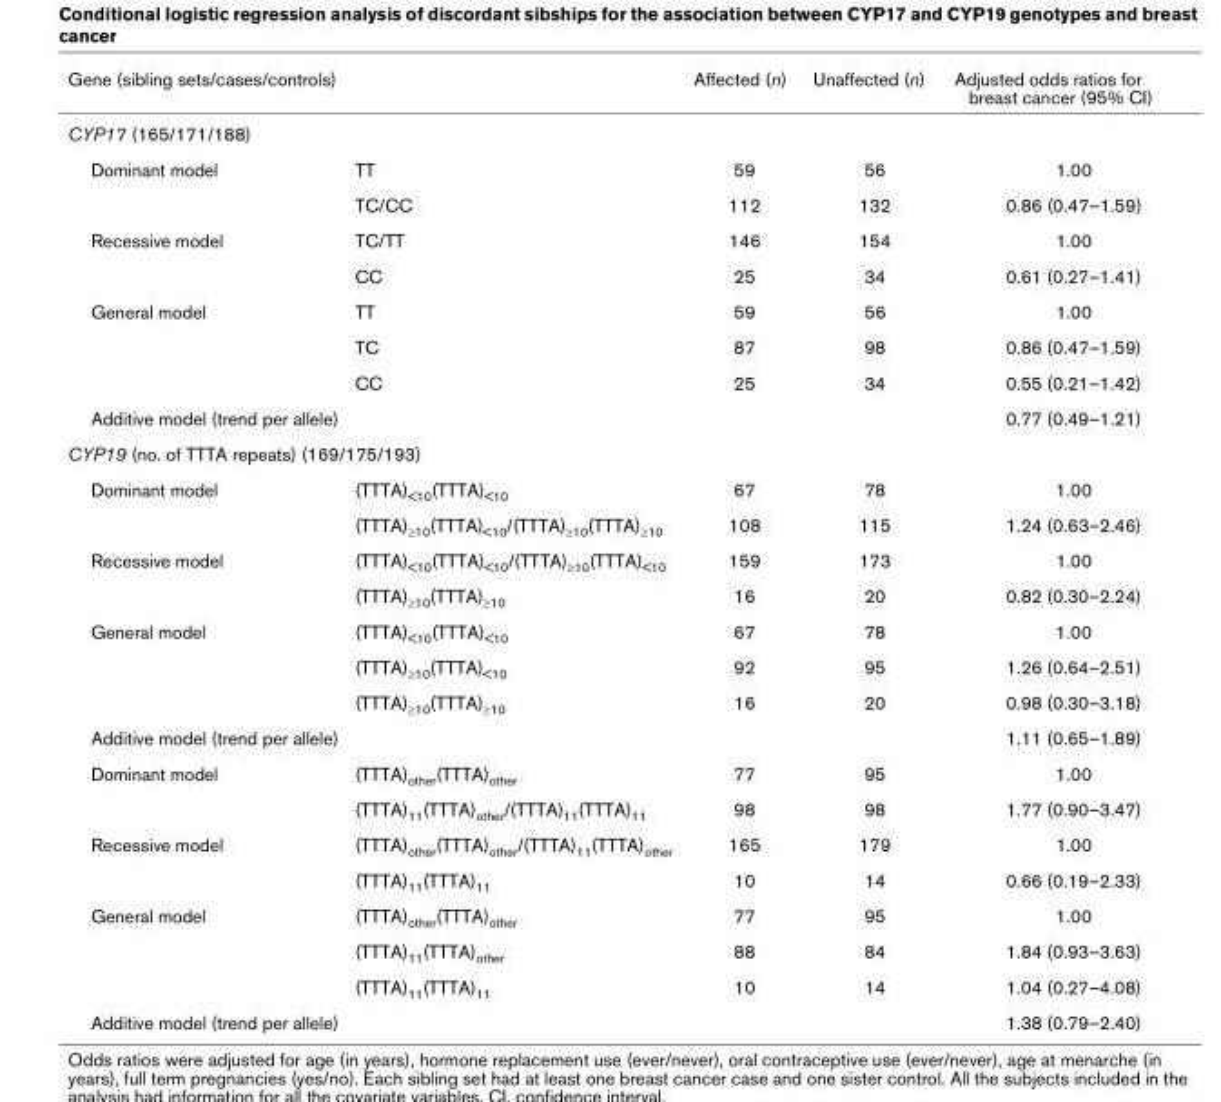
<table><thead><tr><td>Gene (sibling sets/cases/controls)</td><td></td><td>Affected (n)</td><td>Unaffected (n)</td><td>Adjusted odds ratios for breast cancer (95% CI)</td></tr></thead><tbody><tr><td colspan="5">CYP17 (165/171/188)</td></tr><tr><td rowspan="2">Dominant model</td><td>TT</td><td>59</td><td>56</td><td>1.00</td></tr><tr><td>TC/CC</td><td>112</td><td>132</td><td>0.86 (0.47–1.59)</td></tr><tr><td rowspan="2">Recessive model</td><td>TC/TT</td><td>146</td><td>154</td><td>1.00</td></tr><tr><td>CC</td><td>25</td><td>34</td><td>0.61 (0.27–1.41)</td></tr><tr><td rowspan="3">General model</td><td>TT</td><td>59</td><td>56</td><td>1.00</td></tr><tr><td>TC</td><td>87</td><td>98</td><td>0.86 (0.47–1.59)</td></tr><tr><td>CC</td><td>25</td><td>34</td><td>0.55 (0.21–1.42)</td></tr><tr><td colspan="4">Additive model (trend per allele)</td><td>0.77 (0.49–1.21)</td></tr><tr><td colspan="5">CYP19 (no. of TTTA repeats) (169/175/193)</td></tr><tr><td rowspan="2">Dominant model</td><td>(TTTA)&lt;10(TTTA)&lt;10</td><td>67</td><td>78</td><td>1.00</td></tr><tr><td>(TTTA)≥10(TTTA)&lt;10/(TTTA)≥10(TTTA)≥10</td><td>108</td><td>115</td><td>1.24 (0.63–2.46)</td></tr><tr><td rowspan="2">Recessive model</td><td>(TTTA)&lt;10(TTTA)&lt;10/(TTTA)≥10(TTTA)&lt;10</td><td>159</td><td>173</td><td>1.00</td></tr><tr><td>(TTTA)≥10(TTTA)≥10</td><td>16</td><td>20</td><td>0.82 (0.30–2.24)</td></tr><tr><td rowspan="3">General model</td><td>(TTTA)&lt;10(TTTA)&lt;10</td><td>67</td><td>78</td><td>1.00</td></tr><tr><td>(TTTA)≥10(TTTA)&lt;10</td><td>92</td><td>95</td><td>1.26 (0.64–2.51)</td></tr><tr><td>(TTTA)≥10(TTTA)≥10</td><td>16</td><td>20</td><td>0.98 (0.30–3.18)</td></tr><tr><td colspan="4">Additive model (trend per allele)</td><td>1.11 (0.65–1.89)</td></tr><tr><td rowspan="2">Dominant model</td><td>(TTTA)other(TTTA)other</td><td>77</td><td>95</td><td>1.00</td></tr><tr><td>(TTTA)11(TTTA)other/(TTTA)11(TTTA)11</td><td>98</td><td>98</td><td>1.77 (0.90–3.47)</td></tr><tr><td rowspan="2">Recessive model</td><td>(TTTA)other(TTTA)other/(TTTA)11(TTTA)other</td><td>165</td><td>179</td><td>1.00</td></tr><tr><td>(TTTA)11(TTTA)11</td><td>10</td><td>14</td><td>0.66 (0.19–2.33)</td></tr><tr><td rowspan="3">General model</td><td>(TTTA)other(TTTA)other</td><td>77</td><td>95</td><td>1.00</td></tr><tr><td>(TTTA)11(TTTA)other</td><td>88</td><td>84</td><td>1.84 (0.93–3.63)</td></tr><tr><td>(TTTA)11(TTTA)11</td><td>10</td><td>14</td><td>1.04 (0.27–4.08)</td></tr><tr><td colspan="4">Additive model (trend per allele)</td><td>1.38 (0.79–2.40)</td></tr></tbody></table>